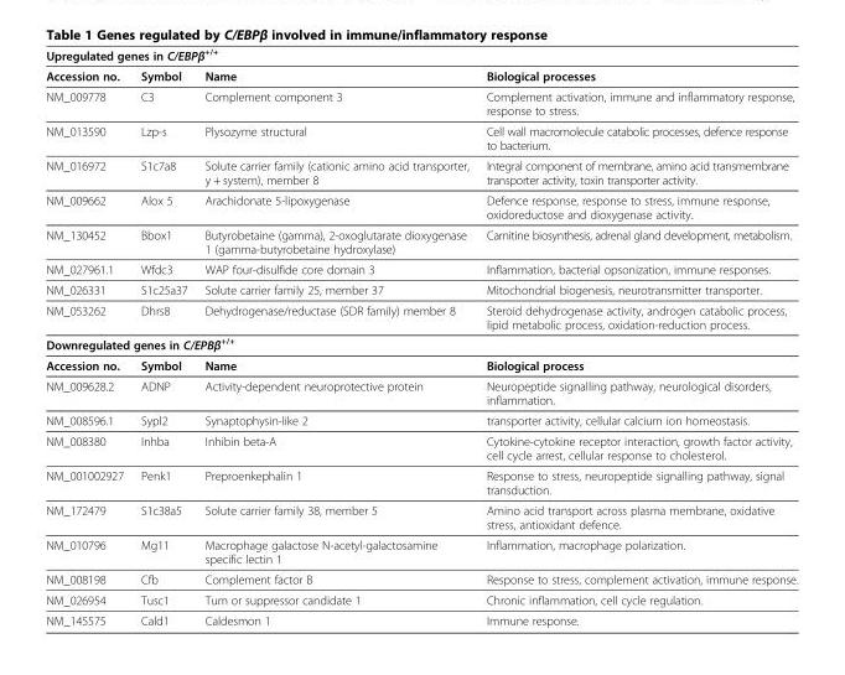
<table><thead><tr><td colspan="4">Upregulated genes in C/EBPβ<sup>+/+</sup></td></tr><tr><td>Accession no.</td><td>Symbol</td><td>Name</td><td>Biological processes</td></tr></thead><tbody><tr><td>NM_009778</td><td>C3</td><td>Complement component 3</td><td>Complement activation, immune and inflammatory response, response to stress.</td></tr><tr><td>NM_013590</td><td>Lzp-s</td><td>Plysozyme structural</td><td>Cell wall macromolecule catabolic processes, defence response to bacterium.</td></tr><tr><td>NM_016972</td><td>S1c7a8</td><td>Solute carrier family (cationic amino acid transporter, y + system), member 8</td><td>Integral component of membrane, amino acid transmembrane transporter activity, toxin transporter activity.</td></tr><tr><td>NM_009662</td><td>Alox 5</td><td>Arachidonate 5-lipoxygenase</td><td>Defence response, response to stress, immune response, oxidoreductose and dioxygenase activity.</td></tr><tr><td>NM_130452</td><td>Bbox1</td><td>Butyrobetaine (gamma), 2-oxoglutarate dioxygenase 1 (gamma-butyrobetaine hydroxylase)</td><td>Carnitine biosynthesis, adrenal gland development, metabolism.</td></tr><tr><td>NM_027961.1</td><td>Wfdc3</td><td>WAP four-disulfide core domain 3</td><td>Inflammation, bacterial opsonization, immune responses.</td></tr><tr><td>NM_026331</td><td>S1c25a37</td><td>Solute carrier family 25, member 37</td><td>Mitochondrial biogenesis, neurotransmitter transporter.</td></tr><tr><td>NM_053262</td><td>Dhrs8</td><td>Dehydrogenase/reductase (SDR family) member 8</td><td>Steroid dehydrogenase activity, androgen catabolic process, lipid metabolic process, oxidation-reduction process.</td></tr><tr><td colspan="4">Downregulated genes in C/EPBβ<sup>+/+</sup></td></tr><tr><td>Accession no.</td><td>Symbol</td><td>Name</td><td>Biological process</td></tr><tr><td>NM_009628.2</td><td>ADNP</td><td>Activity-dependent neuroprotective protein</td><td>Neuropeptide signalling pathway, neurological disorders, inflammation.</td></tr><tr><td>NM_008596.1</td><td>Sypl2</td><td>Synaptophysin-like 2</td><td>transporter activity, cellular calcium ion homeostasis.</td></tr><tr><td>NM_008380</td><td>Inhba</td><td>Inhibin beta-A</td><td>Cytokine-cytokine receptor interaction, growth factor activity, cell cycle arrest, cellular response to cholesterol.</td></tr><tr><td>NM_001002927</td><td>Penk1</td><td>Preproenkephalin 1</td><td>Response to stress, neuropeptide signalling pathway, signal transduction.</td></tr><tr><td>NM_172479</td><td>S1c38a5</td><td>Solute carrier family 38, member 5</td><td>Amino acid transport across plasma membrane, oxidative stress, antioxidant defence.</td></tr><tr><td>NM_010796</td><td>Mg11</td><td>Macrophage galactose N-acetyl-galactosamine specific lectin 1</td><td>Inflammation, macrophage polarization.</td></tr><tr><td>NM_008198</td><td>Cfb</td><td>Complement factor B</td><td>Response to stress, complement activation, immune response.</td></tr><tr><td>NM_026954</td><td>Tusc1</td><td>Tum or suppressor candidate 1</td><td>Chronic inflammation, cell cycle regulation.</td></tr><tr><td>NM_145575</td><td>Cald1</td><td>Caldesmon 1</td><td>Immune response.</td></tr></tbody></table>